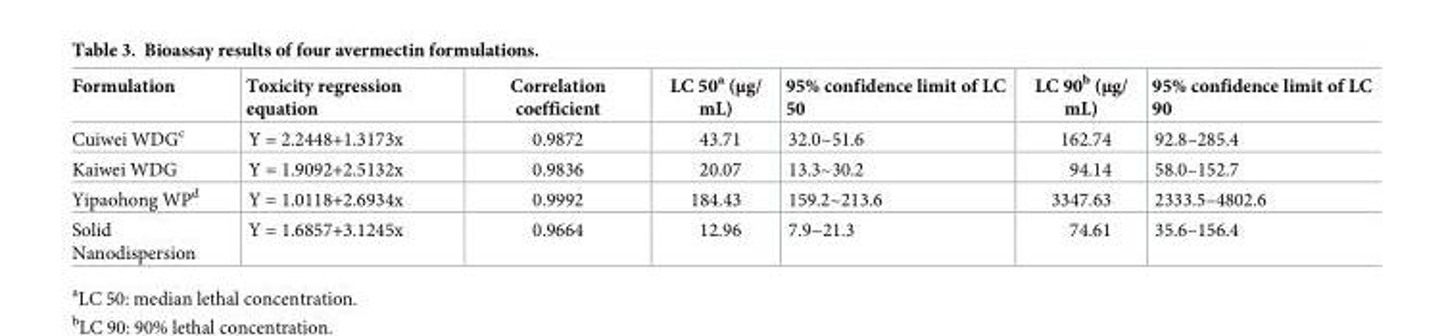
<table><thead><tr><td>Formulation</td><td>Toxicity regression equation</td><td>Correlation coefficient</td><td>LC 50<sup>a</sup> (μg/ mL)</td><td>95% confidence limit of LC 50</td><td>LC 90<sup>b</sup> (μg/ mL)</td><td>95% confidence limit of LC 90</td></tr></thead><tbody><tr><td>Cuiwei WDG<sup>c</sup></td><td>Y = 2.2448+1.3173x</td><td>0.9872</td><td>43.71</td><td>32.0~51.6</td><td>162.74</td><td>92.8–285.4</td></tr><tr><td>Kaiwei WDG</td><td>Y = 1.9092+2.5132x</td><td>0.9836</td><td>20.07</td><td>13.3~30.2</td><td>94.14</td><td>58.0–152.7</td></tr><tr><td>Yipaohong WP<sup>d</sup></td><td>Y = 1.0118+2.6934x</td><td>0.9992</td><td>184.43</td><td>159.2~213.6</td><td>3347.63</td><td>2333.5–4802.6</td></tr><tr><td>Solid Nanodispersion</td><td>Y = 1.6857+3.1245x</td><td>0.9664</td><td>12.96</td><td>7.9~21.3</td><td>74.61</td><td>35.6–156.4</td></tr></tbody></table>